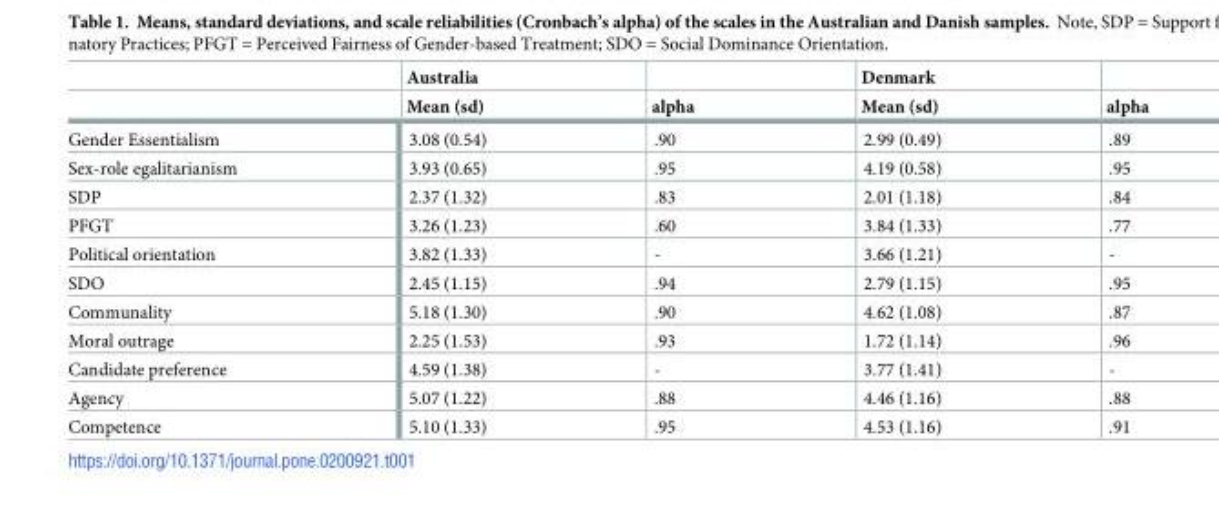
<table><thead><tr><td rowspan="2"></td><td rowspan="2">Australia Mean (sd)</td><td rowspan="2">alpha</td><td rowspan="2">Denmark Mean (sd)</td><td rowspan="2">alpha</td></tr><tr></tr></thead><tbody><tr><td>Gender Essentialism</td><td>3.08 (0.54)</td><td>.90</td><td>2.99 (0.49)</td><td>.89</td></tr><tr><td>Sex-role egalitarianism</td><td>3.93 (0.65)</td><td>.95</td><td>4.19 (0.58)</td><td>.95</td></tr><tr><td>SDP</td><td>2.37 (1.32)</td><td>.83</td><td>2.01 (1.18)</td><td>.84</td></tr><tr><td>PFGT</td><td>3.26 (1.23)</td><td>.60</td><td>3.84 (1.33)</td><td>.77</td></tr><tr><td>Political orientation</td><td>3.82 (1.33)</td><td>-</td><td>3.66 (1.21)</td><td>-</td></tr><tr><td>SDO</td><td>2.45 (1.15)</td><td>.94</td><td>2.79 (1.15)</td><td>.95</td></tr><tr><td>Communality</td><td>5.18 (1.30)</td><td>.90</td><td>4.62 (1.08)</td><td>.87</td></tr><tr><td>Moral outrage</td><td>2.25 (1.53)</td><td>.93</td><td>1.72 (1.14)</td><td>.96</td></tr><tr><td>Candidate preference</td><td>4.59 (1.38)</td><td>-</td><td>3.77 (1.41)</td><td>-</td></tr><tr><td>Agency</td><td>5.07 (1.22)</td><td>.88</td><td>4.46 (1.16)</td><td>.88</td></tr><tr><td>Competence</td><td>5.10 (1.33)</td><td>.95</td><td>4.53 (1.16)</td><td>.91</td></tr></tbody></table>